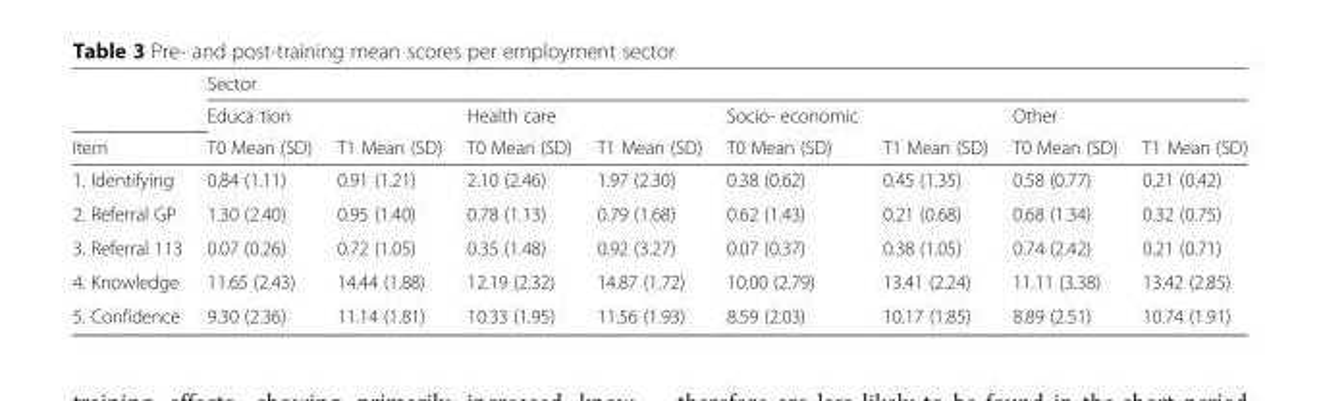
<table><thead><tr><td rowspan="3">Item</td><td colspan="8">Sector</td></tr><tr><td rowspan="2">Educa tion T0 Mean (SD)</td><td rowspan="2">T1 Mean (SD)</td><td rowspan="2">Health care T0 Mean (SD)</td><td rowspan="2">T1 Mean (SD)</td><td rowspan="2">Socio- economic T0 Mean (SD)</td><td rowspan="2">T1 Mean (SD)</td><td rowspan="2">Other T0 Mean (SD)</td><td rowspan="2">T1 Mean (SD)</td></tr><tr></tr></thead><tbody><tr><td>1. Identifying</td><td>0.84 (1.11)</td><td>0.91 (1.21)</td><td>2.10 (2.46)</td><td>1.97 (2.30)</td><td>0.38 (0.62)</td><td>0.45 (1.35)</td><td>0.58 (0.77)</td><td>0.21 (0.42)</td></tr><tr><td>2. Referral GP</td><td>1.30 (2.40)</td><td>0.95 (1.40)</td><td>0.78 (1.13)</td><td>0.79 (1.68)</td><td>0.62 (1.43)</td><td>0.21 (0.68)</td><td>0.68 (1.34)</td><td>0.32 (0.75)</td></tr><tr><td>3. Referral 113</td><td>0.07 (0.26)</td><td>0.72 (1.05)</td><td>0.35 (1.48)</td><td>0.92 (3.27)</td><td>0.07 (0.37)</td><td>0.38 (1.05)</td><td>0.74 (2.42)</td><td>0.21 (0.71)</td></tr><tr><td>4. Knowledge</td><td>11.65 (2.43)</td><td>14.44 (1.88)</td><td>12.19 (2.32)</td><td>14.87 (1.72)</td><td>10.00 (2.79)</td><td>13.41 (2.24)</td><td>11.11 (3.38)</td><td>13.42 (2.85)</td></tr><tr><td>5. Confidence</td><td>9.30 (2.36)</td><td>11.14 (1.81)</td><td>10.33 (1.95)</td><td>11.56 (1.93)</td><td>8.59 (2.03)</td><td>10.17 (1.85)</td><td>8.89 (2.51)</td><td>10.74 (1.91)</td></tr></tbody></table>